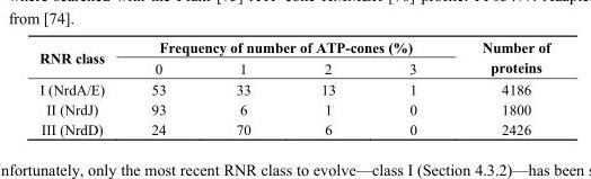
<table><thead><tr><td rowspan="2">RNR class</td><td colspan="4">Frequency of number of ATP-cones (%)</td><td rowspan="2">Number of proteins</td></tr><tr><td>0</td><td>1</td><td>2</td><td>3</td></tr></thead><tbody><tr><td>I (NrdA/E)</td><td>53</td><td>33</td><td>13</td><td>1</td><td>4186</td></tr><tr><td>II (NrdJ)</td><td>93</td><td>6</td><td>1</td><td>0</td><td>1800</td></tr><tr><td>III (NrdD)</td><td>24</td><td>70</td><td>6</td><td>0</td><td>2426</td></tr></tbody></table>